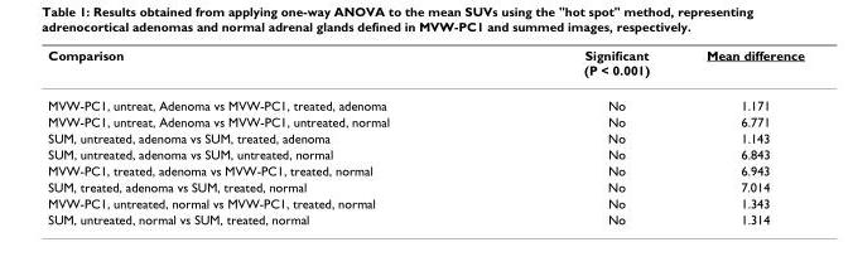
<table><thead><tr><td>Comparison</td><td>Significant (P &lt; 0.001)</td><td>Mean difference</td></tr></thead><tbody><tr><td>MVW-PC1, untreat, Adenoma vs MVW-PC1, treated, adenoma</td><td>No</td><td>1.171</td></tr><tr><td>MVW-PC1, untreat, Adenoma vs MVW-PC1, untreated, normal</td><td>No</td><td>6.771</td></tr><tr><td>SUM, untreated, adenoma vs SUM, treated, adenoma</td><td>No</td><td>1.143</td></tr><tr><td>SUM, untreated, adenoma vs SUM, untreated, normal</td><td>No</td><td>6.843</td></tr><tr><td>MVW-PC1, treated, adenoma vs MVW-PC1, treated, normal</td><td>No</td><td>6.943</td></tr><tr><td>SUM, treated, adenoma vs SUM, treated, normal</td><td>No</td><td>7.014</td></tr><tr><td>MVW-PC1, untreated, normal vs MVW-PC1, treated, normal</td><td>No</td><td>1.343</td></tr><tr><td>SUM, untreated, normal vs SUM, treated, normal</td><td>No</td><td>1.314</td></tr></tbody></table>